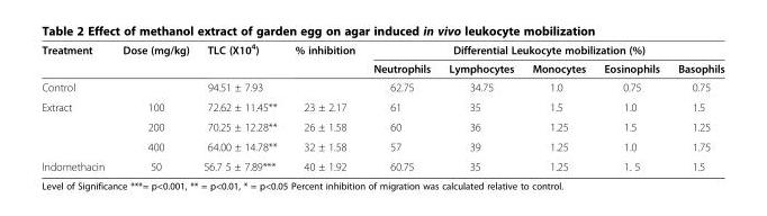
<table><thead><tr><td rowspan="2">Treatment</td><td rowspan="2">Dose (mg/kg)</td><td rowspan="2">TLC (X10<sup>4</sup>)</td><td rowspan="2">% inhibition</td><td colspan="5">Differential Leukocyte mobilization (%)</td></tr><tr><td>Neutrophils</td><td>Lymphocytes</td><td>Monocytes</td><td>Eosinophils</td><td>Basophils</td></tr></thead><tbody><tr><td>Control</td><td></td><td>94.51 ± 7.93</td><td></td><td>62.75</td><td>34.75</td><td>1.0</td><td>0.75</td><td>0.75</td></tr><tr><td rowspan="3">Extract</td><td>100</td><td>72.62 ± 11.45**</td><td>23 ± 2.17</td><td>61</td><td>35</td><td>1.5</td><td>1.0</td><td>1.5</td></tr><tr><td>200</td><td>70.25 ± 12.28**</td><td>26 ± 1.58</td><td>60</td><td>36</td><td>1.25</td><td>1.5</td><td>1.25</td></tr><tr><td>400</td><td>64.00 ± 14.78**</td><td>32 ± 1.58</td><td>57</td><td>39</td><td>1.25</td><td>1.0</td><td>1.75</td></tr><tr><td>Indomethacin</td><td>50</td><td>56.7 5 ± 7.89***</td><td>40 ± 1.92</td><td>60.75</td><td>35</td><td>1.25</td><td>1. 5</td><td>1.5</td></tr></tbody></table>